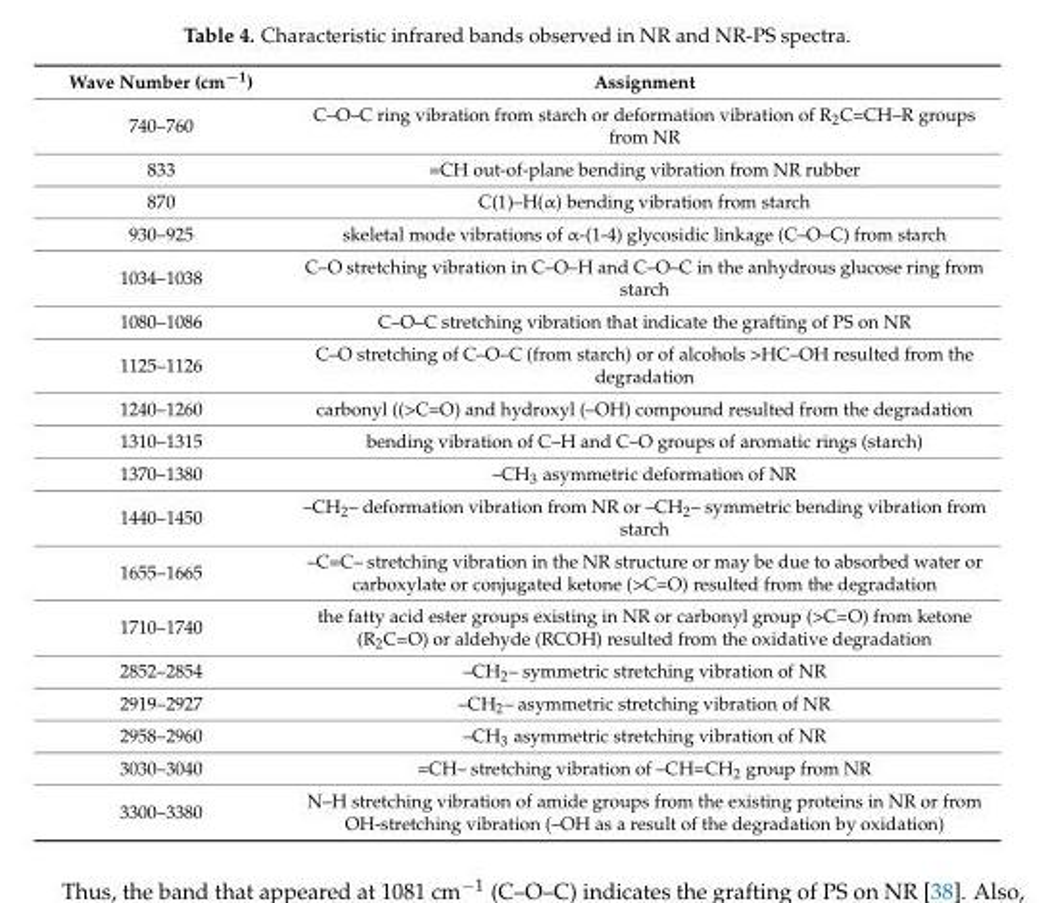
<table><thead><tr><td>Wave Number (cm<sup>−1</sup>)</td><td>Assignment</td></tr></thead><tbody><tr><td>740–760</td><td>C–O–C ring vibration from starch or deformation vibration of R<sub>2</sub>C=CH–R groups from NR</td></tr><tr><td>833</td><td>=CH out-of-plane bending vibration from NR rubber</td></tr><tr><td>870</td><td>C(1)–H(α) bending vibration from starch</td></tr><tr><td>930–925</td><td>skeletal mode vibrations of α-(1-4) glycosidic linkage (C–O–C) from starch</td></tr><tr><td>1034–1038</td><td>C–O stretching vibration in C–O–H and C–O–C in the anhydrous glucose ring from starch</td></tr><tr><td>1080–1086</td><td>C–O–C stretching vibration that indicate the grafting of PS on NR</td></tr><tr><td>1125–1126</td><td>C–O stretching of C–O–C (from starch) or of alcohols &gt;HC–OH resulted from the degradation</td></tr><tr><td>1240–1260</td><td>carbonyl ((&gt;C=O) and hydroxyl (–OH) compound resulted from the degradation</td></tr><tr><td>1310–1315</td><td>bending vibration of C–H and C–O groups of aromatic rings (starch)</td></tr><tr><td>1370–1380</td><td>–CH<sub>3</sub> asymmetric deformation of NR</td></tr><tr><td>1440–1450</td><td>–CH<sub>2</sub>– deformation vibration from NR or –CH<sub>2</sub>– symmetric bending vibration from starch</td></tr><tr><td>1655–1665</td><td>–C=C– stretching vibration in the NR structure or may be due to absorbed water or carboxylate or conjugated ketone (&gt;C=O) resulted from the degradation</td></tr><tr><td>1710–1740</td><td>the fatty acid ester groups existing in NR or carbonyl group (&gt;C=O) from ketone (R<sub>2</sub>C=O) or aldehyde (RCOH) resulted from the oxidative degradation</td></tr><tr><td>2852–2854</td><td>–CH<sub>2</sub>– symmetric stretching vibration of NR</td></tr><tr><td>2919–2927</td><td>–CH<sub>2</sub>– asymmetric stretching vibration of NR</td></tr><tr><td>2958–2960</td><td>–CH<sub>3</sub> asymmetric stretching vibration of NR</td></tr><tr><td>3030–3040</td><td>=CH– stretching vibration of –CH=CH<sub>2</sub> group from NR</td></tr><tr><td>3300–3380</td><td>N–H stretching vibration of amide groups from the existing proteins in NR or from OH-stretching vibration (–OH as a result of the degradation by oxidation)</td></tr></tbody></table>